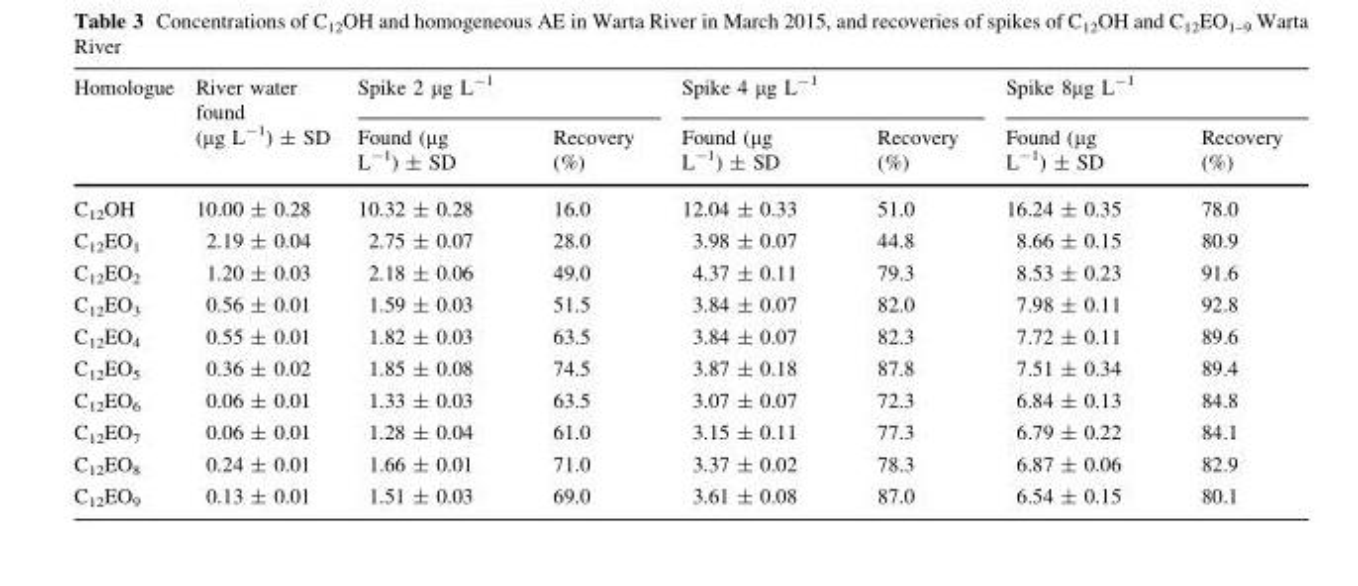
<table><thead><tr><td rowspan="2">Homologue</td><td rowspan="2">River water found (µg L<sup>-1</sup>) ± SD</td><td colspan="2">Spike 2 µg L<sup>-1</sup></td><td colspan="2">Spike 4 µg L<sup>-1</sup></td><td colspan="2">Spike 8µg L<sup>-1</sup></td></tr><tr><td>Found (µg L<sup>-1</sup>) ± SD</td><td>Recovery (%)</td><td>Found (µg L<sup>-1</sup>) ± SD</td><td>Recovery (%)</td><td>Found (µg L<sup>-1</sup>) ± SD</td><td>Recovery (%)</td></tr></thead><tbody><tr><td>C<sub>12</sub>OH</td><td>10.00 ± 0.28</td><td>10.32 ± 0.28</td><td>16.0</td><td>12.04 ± 0.33</td><td>51.0</td><td>16.24 ± 0.35</td><td>78.0</td></tr><tr><td>C<sub>12</sub>EO<sub>1</sub></td><td>2.19 ± 0.04</td><td>2.75 ± 0.07</td><td>28.0</td><td>3.98 ± 0.07</td><td>44.8</td><td>8.66 ± 0.15</td><td>80.9</td></tr><tr><td>C<sub>12</sub>EO<sub>2</sub></td><td>1.20 ± 0.03</td><td>2.18 ± 0.06</td><td>49.0</td><td>4.37 ± 0.11</td><td>79.3</td><td>8.53 ± 0.23</td><td>91.6</td></tr><tr><td>C<sub>12</sub>EO<sub>3</sub></td><td>0.56 ± 0.01</td><td>1.59 ± 0.03</td><td>51.5</td><td>3.84 ± 0.07</td><td>82.0</td><td>7.98 ± 0.11</td><td>92.8</td></tr><tr><td>C<sub>12</sub>EO<sub>4</sub></td><td>0.55 ± 0.01</td><td>1.82 ± 0.03</td><td>63.5</td><td>3.84 ± 0.07</td><td>82.3</td><td>7.72 ± 0.11</td><td>89.6</td></tr><tr><td>C<sub>12</sub>EO<sub>5</sub></td><td>0.36 ± 0.02</td><td>1.85 ± 0.08</td><td>74.5</td><td>3.87 ± 0.18</td><td>87.8</td><td>7.51 ± 0.34</td><td>89.4</td></tr><tr><td>C<sub>12</sub>EO<sub>6</sub></td><td>0.06 ± 0.01</td><td>1.33 ± 0.03</td><td>63.5</td><td>3.07 ± 0.07</td><td>72.3</td><td>6.84 ± 0.13</td><td>84.8</td></tr><tr><td>C<sub>12</sub>EO<sub>7</sub></td><td>0.06 ± 0.01</td><td>1.28 ± 0.04</td><td>61.0</td><td>3.15 ± 0.11</td><td>77.3</td><td>6.79 ± 0.22</td><td>84.1</td></tr><tr><td>C<sub>12</sub>EO<sub>8</sub></td><td>0.24 ± 0.01</td><td>1.66 ± 0.01</td><td>71.0</td><td>3.37 ± 0.02</td><td>78.3</td><td>6.87 ± 0.06</td><td>82.9</td></tr><tr><td>C<sub>12</sub>EO<sub>9</sub></td><td>0.13 ± 0.01</td><td>1.51 ± 0.03</td><td>69.0</td><td>3.61 ± 0.08</td><td>87.0</td><td>6.54 ± 0.15</td><td>80.1</td></tr></tbody></table>